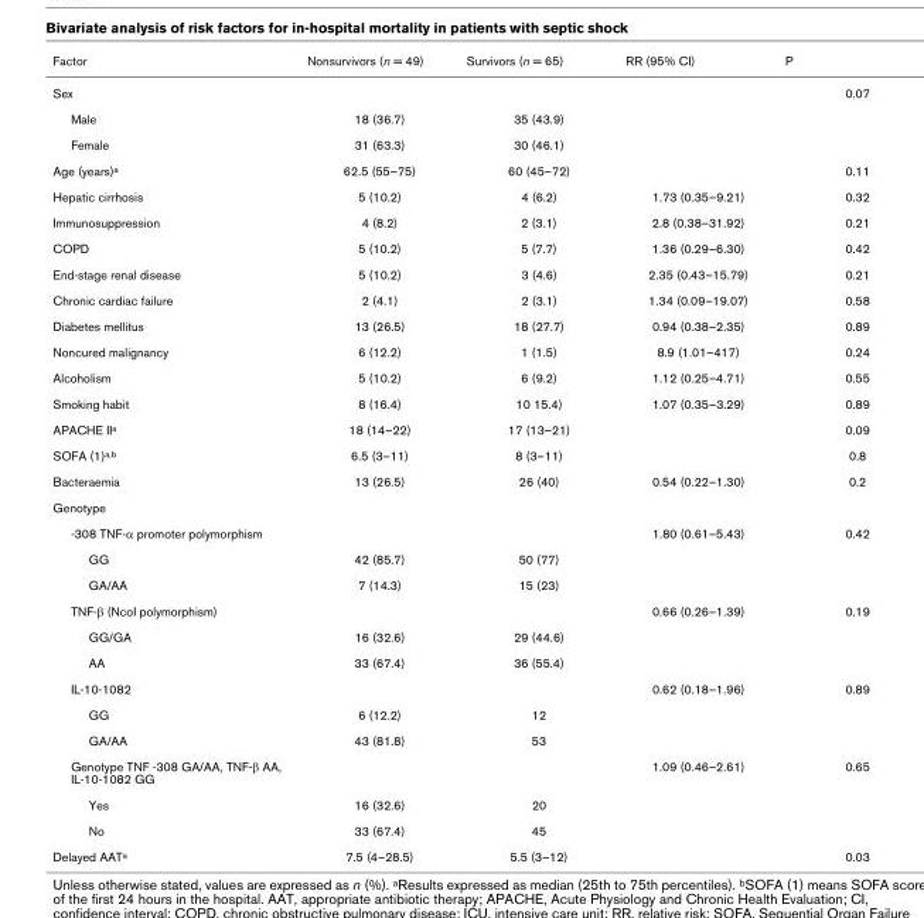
<table><thead><tr><td>Factor</td><td>Nonsurvivors (n = 49)</td><td>Survivors (n = 65)</td><td>RR (95% CI)</td><td>P</td></tr></thead><tbody><tr><td>Sex</td><td></td><td></td><td></td><td>0.07</td></tr><tr><td>Male</td><td>18 (36.7)</td><td>35 (43.9)</td><td></td><td></td></tr><tr><td>Female</td><td>31 (63.3)</td><td>30 (46.1)</td><td></td><td></td></tr><tr><td>Age (years)a</td><td>62.5 (55–75)</td><td>60 (45–72)</td><td></td><td>0.11</td></tr><tr><td>Hepatic cirrhosis</td><td>5 (10.2)</td><td>4 (6.2)</td><td>1.73 (0.35–9.21)</td><td>0.32</td></tr><tr><td>Immunosuppression</td><td>4 (8.2)</td><td>2 (3.1)</td><td>2.8 (0.38–31.92)</td><td>0.21</td></tr><tr><td>COPD</td><td>5 (10.2)</td><td>5 (7.7)</td><td>1.36 (0.29–6.30)</td><td>0.42</td></tr><tr><td>End-stage renal disease</td><td>5 (10.2)</td><td>3 (4.6)</td><td>2.35 (0.43–15.79)</td><td>0.21</td></tr><tr><td>Chronic cardiac failure</td><td>2 (4.1)</td><td>2 (3.1)</td><td>1.34 (0.09–19.07)</td><td>0.58</td></tr><tr><td>Diabetes mellitus</td><td>13 (26.5)</td><td>18 (27.7)</td><td>0.94 (0.38–2.35)</td><td>0.89</td></tr><tr><td>Noncured malignancy</td><td>6 (12.2)</td><td>1 (1.5)</td><td>8.9 (1.01–417)</td><td>0.24</td></tr><tr><td>Alcoholism</td><td>5 (10.2)</td><td>6 (9.2)</td><td>1.12 (0.25–4.71)</td><td>0.55</td></tr><tr><td>Smoking habit</td><td>8 (16.4)</td><td>10 15.4)</td><td>1.07 (0.35–3.29)</td><td>0.89</td></tr><tr><td>APACHE IIa</td><td>18 (14–22)</td><td>17 (13–21)</td><td></td><td>0.09</td></tr><tr><td>SOFA (1)a,b</td><td>6.5 (3–11)</td><td>8 (3–11)</td><td></td><td>0.8</td></tr><tr><td>Bacteraemia</td><td>13 (26.5)</td><td>26 (40)</td><td>0.54 (0.22–1.30)</td><td>0.2</td></tr><tr><td colspan="5">Genotype</td></tr><tr><td>-308 TNF-α promoter polymorphism</td><td></td><td></td><td>1.80 (0.61–5.43)</td><td>0.42</td></tr><tr><td>GG</td><td>42 (85.7)</td><td>50 (77)</td><td></td><td></td></tr><tr><td>GA/AA</td><td>7 (14.3)</td><td>15 (23)</td><td></td><td></td></tr><tr><td>TNF-β (NcoI polymorphism)</td><td></td><td></td><td>0.66 (0.26–1.39)</td><td>0.19</td></tr><tr><td>GG/GA</td><td>16 (32.6)</td><td>29 (44.6)</td><td></td><td></td></tr><tr><td>AA</td><td>33 (67.4)</td><td>36 (55.4)</td><td></td><td></td></tr><tr><td>IL-10-1082</td><td></td><td></td><td>0.62 (0.18–1.96)</td><td>0.89</td></tr><tr><td>GG</td><td>6 (12.2)</td><td>12</td><td></td><td></td></tr><tr><td>GA/AA</td><td>43 (81.8)</td><td>53</td><td></td><td></td></tr><tr><td>Genotype TNF -308 GA/AA, TNF-β AA, IL-10-1082 GG</td><td></td><td></td><td>1.09 (0.46–2.61)</td><td>0.65</td></tr><tr><td>Yes</td><td>16 (32.6)</td><td>20</td><td></td><td></td></tr><tr><td>No</td><td>33 (67.4)</td><td>45</td><td></td><td></td></tr><tr><td>Delayed AATa</td><td>7.5 (4–28.5)</td><td>5.5 (3–12)</td><td></td><td>0.03</td></tr></tbody></table>